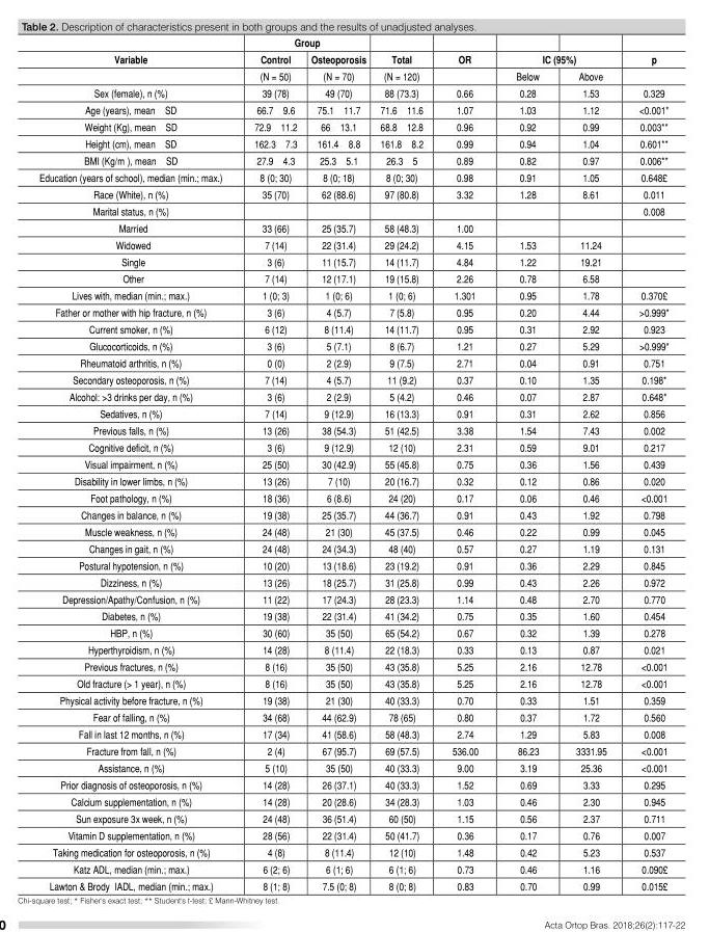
<table><thead><tr><td rowspan="2">Variable</td><td colspan="2">Group</td><td rowspan="2">Total</td><td rowspan="2">OR</td><td></td><td></td><td rowspan="2">p</td></tr><tr><td>Control</td><td>Osteoporosis</td><td colspan="2">IC (95%)</td></tr></thead><tbody><tr><td></td><td>(N = 50)</td><td>(N = 70)</td><td>(N = 120)</td><td></td><td>Below</td><td>Above</td><td></td></tr><tr><td>Sex (female), n (%)</td><td>39 (78)</td><td>49 (70)</td><td>88 (73.3)</td><td>0.66</td><td>0.28</td><td>1.53</td><td>0.329</td></tr><tr><td>Age (years), mean ± SD</td><td>66.7 ± 9.6</td><td>75.1 ± 11.7</td><td>71.6 ± 11.6</td><td>1.07</td><td>1.03</td><td>1.12</td><td>&lt;0.001*</td></tr><tr><td>Weight (Kg), mean ± SD</td><td>72.9 ± 11.2</td><td>66 ± 13.1</td><td>68.8 ± 12.8</td><td>0.96</td><td>0.92</td><td>0.99</td><td>0.003**</td></tr><tr><td>Height (cm), mean ± SD</td><td>162.3 ± 7.3</td><td>161.4 ± 8.8</td><td>161.8 ± 8.2</td><td>0.99</td><td>0.94</td><td>1.04</td><td>0.601**</td></tr><tr><td>BMI (Kg/m²), mean ± SD</td><td>27.9 ± 4.3</td><td>25.3 ± 5.1</td><td>26.3 ± 5</td><td>0.89</td><td>0.82</td><td>0.97</td><td>0.006**</td></tr><tr><td>Education (years of school), median (min.; max.)</td><td>8 (0; 30)</td><td>8 (0; 18)</td><td>8 (0; 30)</td><td>0.98</td><td>0.91</td><td>1.05</td><td>0.648£</td></tr><tr><td>Race (White), n (%)</td><td>35 (70)</td><td>62 (88.6)</td><td>97 (80.8)</td><td>3.32</td><td>1.28</td><td>8.61</td><td>0.011</td></tr><tr><td>Marital status, n (%)</td><td></td><td></td><td></td><td></td><td></td><td></td><td>0.008</td></tr><tr><td>Married</td><td>33 (66)</td><td>25 (35.7)</td><td>58 (48.3)</td><td>1.00</td><td></td><td></td><td></td></tr><tr><td>Widowed</td><td>7 (14)</td><td>22 (31.4)</td><td>29 (24.2)</td><td>4.15</td><td>1.53</td><td>11.24</td><td></td></tr><tr><td>Single</td><td>3 (6)</td><td>11 (15.7)</td><td>14 (11.7)</td><td>4.84</td><td>1.22</td><td>19.21</td><td></td></tr><tr><td>Other</td><td>7 (14)</td><td>12 (17.1)</td><td>19 (15.8)</td><td>2.26</td><td>0.78</td><td>6.58</td><td></td></tr><tr><td>Lives with, median (min.; max.)</td><td>1 (0; 3)</td><td>1 (0; 6)</td><td>1 (0; 6)</td><td>1.301</td><td>0.95</td><td>1.78</td><td>0.370£</td></tr><tr><td>Father or mother with hip fracture, n (%)</td><td>3 (6)</td><td>4 (5.7)</td><td>7 (5.8)</td><td>0.95</td><td>0.20</td><td>4.44</td><td>&gt;0.999*</td></tr><tr><td>Current smoker, n (%)</td><td>6 (12)</td><td>8 (11.4)</td><td>14 (11.7)</td><td>0.95</td><td>0.31</td><td>2.92</td><td>0.923</td></tr><tr><td>Glucocorticoids, n (%)</td><td>3 (6)</td><td>5 (7.1)</td><td>8 (6.7)</td><td>1.21</td><td>0.27</td><td>5.29</td><td>&gt;0.999*</td></tr><tr><td>Rheumatoid arthritis, n (%)</td><td>0 (0)</td><td>2 (2.9)</td><td>9 (7.5)</td><td>2.71</td><td>0.04</td><td>0.91</td><td>0.751</td></tr><tr><td>Secondary osteoporosis, n (%)</td><td>7 (14)</td><td>4 (5.7)</td><td>11 (9.2)</td><td>0.37</td><td>0.10</td><td>1.35</td><td>0.198*</td></tr><tr><td>Alcohol: &gt;3 drinks per day, n (%)</td><td>3 (6)</td><td>2 (2.9)</td><td>5 (4.2)</td><td>0.46</td><td>0.07</td><td>2.87</td><td>0.648*</td></tr><tr><td>Sedatives, n (%)</td><td>7 (14)</td><td>9 (12.9)</td><td>16 (13.3)</td><td>0.91</td><td>0.31</td><td>2.62</td><td>0.856</td></tr><tr><td>Previous falls, n (%)</td><td>13 (26)</td><td>38 (54.3)</td><td>51 (42.5)</td><td>3.38</td><td>1.54</td><td>7.43</td><td>0.002</td></tr><tr><td>Cognitive deficit, n (%)</td><td>3 (6)</td><td>9 (12.9)</td><td>12 (10)</td><td>2.31</td><td>0.59</td><td>9.01</td><td>0.217</td></tr><tr><td>Visual impairment, n (%)</td><td>25 (50)</td><td>30 (42.9)</td><td>55 (45.8)</td><td>0.75</td><td>0.36</td><td>1.56</td><td>0.439</td></tr><tr><td>Disability in lower limbs, n (%)</td><td>13 (26)</td><td>7 (10)</td><td>20 (16.7)</td><td>0.32</td><td>0.12</td><td>0.86</td><td>0.020</td></tr><tr><td>Foot pathology, n (%)</td><td>18 (36)</td><td>6 (8.6)</td><td>24 (20)</td><td>0.17</td><td>0.06</td><td>0.46</td><td>&lt;0.001</td></tr><tr><td>Changes in balance, n (%)</td><td>19 (38)</td><td>25 (35.7)</td><td>44 (36.7)</td><td>0.91</td><td>0.43</td><td>1.92</td><td>0.798</td></tr><tr><td>Muscle weakness, n (%)</td><td>24 (48)</td><td>21 (30)</td><td>45 (37.5)</td><td>0.46</td><td>0.22</td><td>0.99</td><td>0.045</td></tr><tr><td>Changes in gait, n (%)</td><td>24 (48)</td><td>24 (34.3)</td><td>48 (40)</td><td>0.57</td><td>0.27</td><td>1.19</td><td>0.131</td></tr><tr><td>Postural hypotension, n (%)</td><td>10 (20)</td><td>13 (18.6)</td><td>23 (19.2)</td><td>0.91</td><td>0.36</td><td>2.29</td><td>0.845</td></tr><tr><td>Dizziness, n (%)</td><td>13 (26)</td><td>18 (25.7)</td><td>31 (25.8)</td><td>0.99</td><td>0.43</td><td>2.26</td><td>0.972</td></tr><tr><td>Depression/Apathy/Confusion, n (%)</td><td>11 (22)</td><td>17 (24.3)</td><td>28 (23.3)</td><td>1.14</td><td>0.48</td><td>2.70</td><td>0.770</td></tr><tr><td>Diabetes, n (%)</td><td>19 (38)</td><td>22 (31.4)</td><td>41 (34.2)</td><td>0.75</td><td>0.35</td><td>1.60</td><td>0.454</td></tr><tr><td>HBP, n (%)</td><td>30 (60)</td><td>35 (50)</td><td>65 (54.2)</td><td>0.67</td><td>0.32</td><td>1.39</td><td>0.278</td></tr><tr><td>Hyperthyroidism, n (%)</td><td>14 (28)</td><td>8 (11.4)</td><td>22 (18.3)</td><td>0.33</td><td>0.13</td><td>0.87</td><td>0.021</td></tr><tr><td>Previous fractures, n (%)</td><td>8 (16)</td><td>35 (50)</td><td>43 (35.8)</td><td>5.25</td><td>2.16</td><td>12.78</td><td>&lt;0.001</td></tr><tr><td>Old fracture (&gt; 1 year), n (%)</td><td>8 (16)</td><td>35 (50)</td><td>43 (35.8)</td><td>5.25</td><td>2.16</td><td>12.78</td><td>&lt;0.001</td></tr><tr><td>Physical activity before fracture, n (%)</td><td>19 (38)</td><td>21 (30)</td><td>40 (33.3)</td><td>0.70</td><td>0.33</td><td>1.51</td><td>0.359</td></tr><tr><td>Fear of falling, n (%)</td><td>34 (68)</td><td>44 (62.9)</td><td>78 (65)</td><td>0.80</td><td>0.37</td><td>1.72</td><td>0.560</td></tr><tr><td>Fall in last 12 months, n (%)</td><td>17 (34)</td><td>41 (58.6)</td><td>58 (48.3)</td><td>2.74</td><td>1.29</td><td>5.83</td><td>0.008</td></tr><tr><td>Fracture from fall, n (%)</td><td>2 (4)</td><td>67 (95.7)</td><td>69 (57.5)</td><td>536.00</td><td>86.23</td><td>3331.95</td><td>&lt;0.001</td></tr><tr><td>Assistance, n (%)</td><td>5 (10)</td><td>35 (50)</td><td>40 (33.3)</td><td>9.00</td><td>3.19</td><td>25.36</td><td>&lt;0.001</td></tr><tr><td>Prior diagnosis of osteoporosis, n (%)</td><td>14 (28)</td><td>26 (37.1)</td><td>40 (33.3)</td><td>1.52</td><td>0.69</td><td>3.33</td><td>0.295</td></tr><tr><td>Calcium supplementation, n (%)</td><td>14 (28)</td><td>20 (28.6)</td><td>34 (28.3)</td><td>1.03</td><td>0.46</td><td>2.30</td><td>0.945</td></tr><tr><td>Sun exposure 3x week, n (%)</td><td>24 (48)</td><td>36 (51.4)</td><td>60 (50)</td><td>1.15</td><td>0.56</td><td>2.37</td><td>0.711</td></tr><tr><td>Vitamin D supplementation, n (%)</td><td>28 (56)</td><td>22 (31.4)</td><td>50 (41.7)</td><td>0.36</td><td>0.17</td><td>0.76</td><td>0.007</td></tr><tr><td>Taking medication for osteoporosis, n (%)</td><td>4 (8)</td><td>8 (11.4)</td><td>12 (10)</td><td>1.48</td><td>0.42</td><td>5.23</td><td>0.537</td></tr><tr><td>Katz ADL, median (min.; max.)</td><td>6 (2; 6)</td><td>6 (1; 6)</td><td>6 (1; 6)</td><td>0.73</td><td>0.46</td><td>1.16</td><td>0.090£</td></tr><tr><td>Lawton &amp; Brody IADL, median (min.; max.)</td><td>8 (1; 8)</td><td>7.5 (0; 8)</td><td>8 (0; 8)</td><td>0.83</td><td>0.70</td><td>0.99</td><td>0.015£</td></tr></tbody></table>